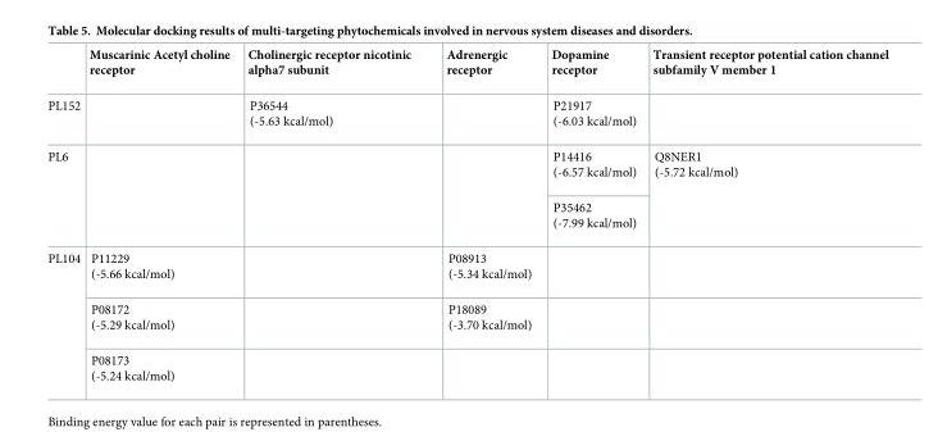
<table><thead><tr><td></td><td>Muscarinic Acetyl choline receptor</td><td>Cholinergic receptor nicotinic alpha7 subunit</td><td>Adrenergic receptor</td><td>Dopamine receptor</td><td>Transient receptor potential cation channel subfamily V member 1</td></tr></thead><tbody><tr><td>PL152</td><td></td><td>P36544 (-5.63 kcal/mol)</td><td></td><td>P21917 (-6.03 kcal/mol)</td><td></td></tr><tr><td rowspan="2">PL6</td><td rowspan="2"></td><td rowspan="2"></td><td rowspan="2"></td><td>P14416 (-6.57 kcal/mol)</td><td rowspan="2">Q8NER1 (-5.72 kcal/mol)</td></tr><tr><td>P35462 (-7.99 kcal/mol)</td></tr><tr><td rowspan="3">PL104</td><td>P11229 (-5.66 kcal/mol)</td><td></td><td>P08913 (-5.34 kcal/mol)</td><td></td><td></td></tr><tr><td>P08172 (-5.29 kcal/mol)</td><td></td><td>P18089 (-3.70 kcal/mol)</td><td></td><td></td></tr><tr><td>P08173 (-5.24 kcal/mol)</td><td></td><td></td><td></td><td></td></tr></tbody></table>